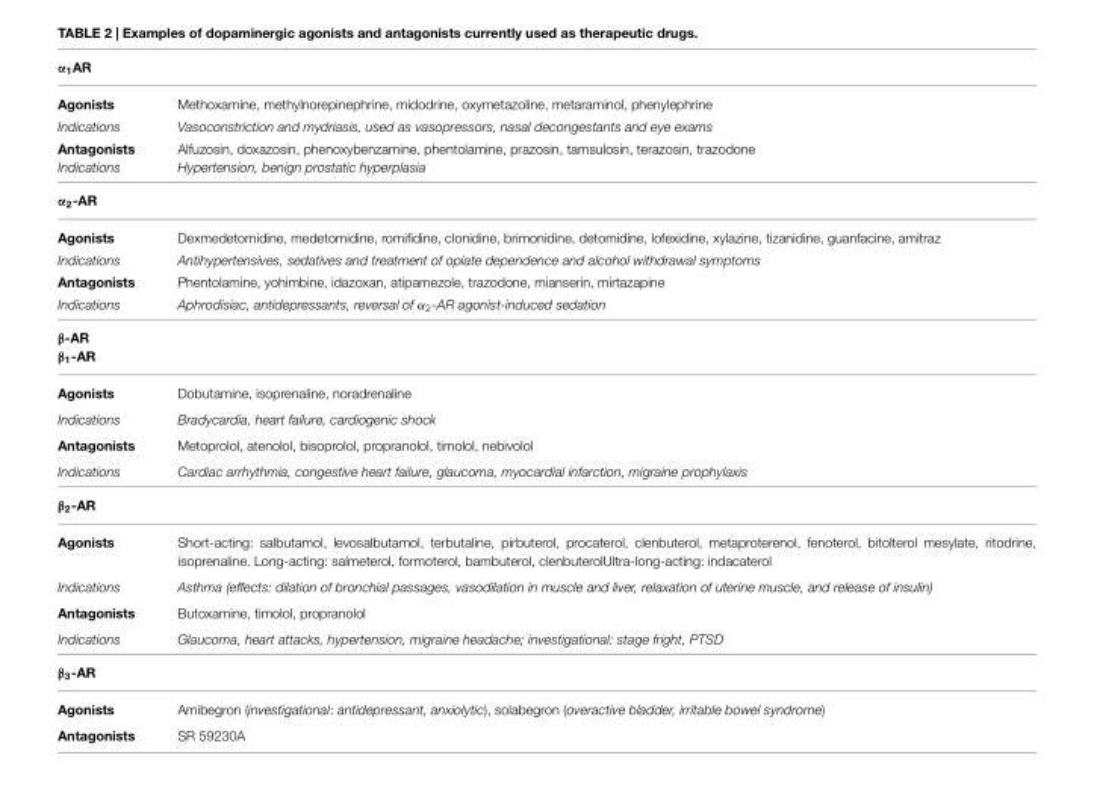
<table><tbody><tr><td colspan="2">α<sub>1</sub>AR</td></tr><tr><td>Agonists</td><td>Methoxamine, methylnorepinephrine, midodrine, oxymetazoline, metaraminol, phenylephrine</td></tr><tr><td>Indications</td><td>Vasoconstriction and mydriasis, used as vasopressors, nasal decongestants and eye exams</td></tr><tr><td>Antagonists</td><td>Alfuzosin, doxazosin, phenoxybenzamine, phentolamine, prazosin, tamsulosin, terazosin, trazodone</td></tr><tr><td>Indications</td><td>Hypertension, benign prostatic hyperplasia</td></tr><tr><td colspan="2">α<sub>2</sub>-AR</td></tr><tr><td>Agonists</td><td>Dexmedetomidine, medetomidine, romifidine, clonidine, brimonidine, detomidine, lofexidine, xylazine, tizanidine, guanfacine, amitraz</td></tr><tr><td>Indications</td><td>Antihypertensives, sedatives and treatment of opiate dependence and alcohol withdrawal symptoms</td></tr><tr><td>Antagonists</td><td>Phentolamine, yohimbine, idazoxan, atipamezole, trazodone, mianserin, mirtazapine</td></tr><tr><td>Indications</td><td>Aphrodisiac, antidepressants, reversal of α<sub>2</sub>-AR agonist-induced sedation</td></tr><tr><td colspan="2">β-AR</td></tr><tr><td colspan="2">β<sub>1</sub>-AR</td></tr><tr><td>Agonists</td><td>Dobutamine, isoprenaline, noradrenaline</td></tr><tr><td>Indications</td><td>Bradycardia, heart failure, cardiogenic shock</td></tr><tr><td>Antagonists</td><td>Metoprolol, atenolol, bisoprolol, propranolol, timolol, nebivolol</td></tr><tr><td>Indications</td><td>Cardiac arrhythmia, congestive heart failure, glaucoma, myocardial infarction, migraine prophylaxis</td></tr><tr><td colspan="2">β<sub>2</sub>-AR</td></tr><tr><td>Agonists</td><td>Short-acting: salbutamol, levosalbutamol, terbutaline, pirbuterol, procaterol, clenbuterol, metaproterenol, fenoterol, bitolterol mesylate, ritodrine, isoprenaline. Long-acting: salmeterol, formoterol, bambuterol, clenbuterolUltra-long-acting: indacaterol</td></tr><tr><td>Indications</td><td>Asthma (effects: dilation of bronchial passages, vasodilation in muscle and liver, relaxation of uterine muscle, and release of insulin)</td></tr><tr><td>Antagonists</td><td>Butoxamine, timolol, propranolol</td></tr><tr><td>Indications</td><td>Glaucoma, heart attacks, hypertension, migraine headache; investigational: stage fright, PTSD</td></tr><tr><td colspan="2">β<sub>3</sub>-AR</td></tr><tr><td>Agonists</td><td>Amibegron (investigational: antidepressant, anxiolytic), solabegron (overactive bladder, irritable bowel syndrome)</td></tr><tr><td>Antagonists</td><td>SR 59230A</td></tr></tbody></table>